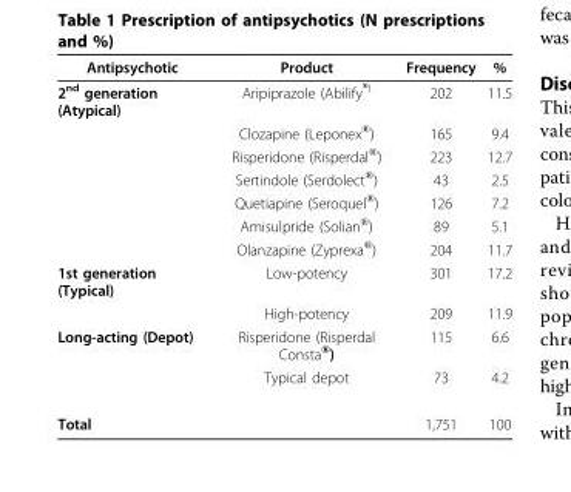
<table><thead><tr><td>Antipsychotic</td><td>Product</td><td>Frequency</td><td>%</td></tr></thead><tbody><tr><td rowspan="7">2<sup>nd</sup> generation (Atypical)</td><td>Aripiprazole (Abilify ®)</td><td>202</td><td>11.5</td></tr><tr><td>Clozapine (Leponex<sup>®</sup>)</td><td>165</td><td>9.4</td></tr><tr><td>Risperidone (Risperdal<sup>®</sup>)</td><td>223</td><td>12.7</td></tr><tr><td>Sertindole (Serdolect<sup>®</sup>)</td><td>43</td><td>2.5</td></tr><tr><td>Quetiapine (Seroquel<sup>®</sup>)</td><td>126</td><td>7.2</td></tr><tr><td>Amisulpride (Solian<sup>®</sup>)</td><td>89</td><td>5.1</td></tr><tr><td>Olanzapine (Zyprexa<sup>®</sup>)</td><td>204</td><td>11.7</td></tr><tr><td rowspan="2">1st generation (Typical)</td><td>Low-potency</td><td>301</td><td>17.2</td></tr><tr><td>High-potency</td><td>209</td><td>11.9</td></tr><tr><td rowspan="2">Long-acting (Depot)</td><td>Risperidone (Risperdal Consta<sup>®</sup>)</td><td>115</td><td>6.6</td></tr><tr><td>Typical depot</td><td>73</td><td>4.2</td></tr><tr><td>Total</td><td></td><td>1,751</td><td>100</td></tr></tbody></table>